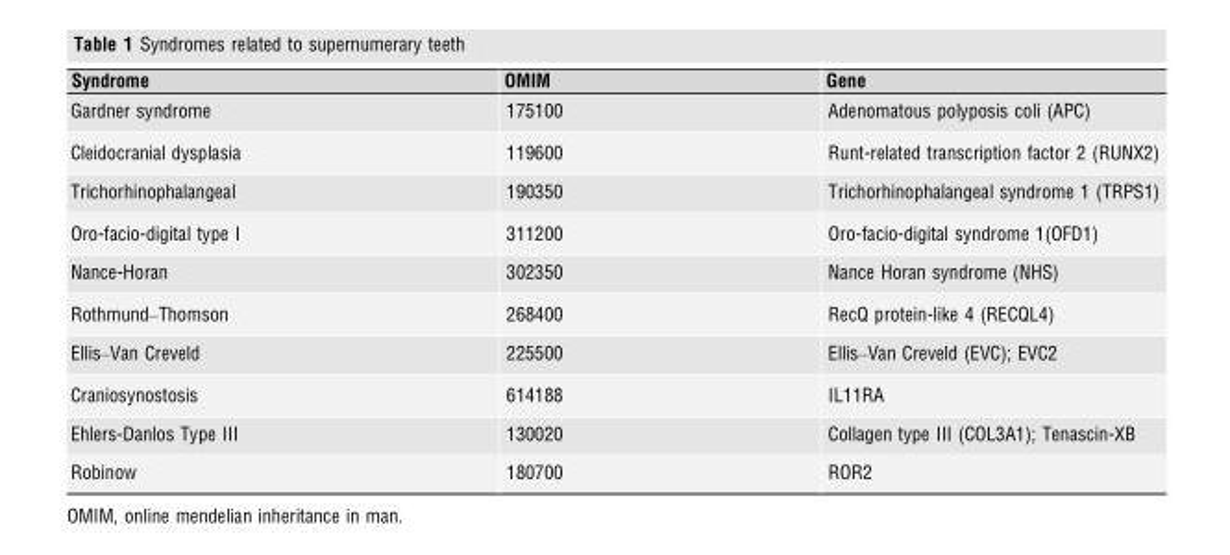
<table><thead><tr><td>Syndrome</td><td>OMIM</td><td>Gene</td></tr></thead><tbody><tr><td>Gardner syndrome</td><td>175100</td><td>Adenomatous polyposis coli (APC)</td></tr><tr><td>Cleidocranial dysplasia</td><td>119600</td><td>Runt-related transcription factor 2 (RUNX2)</td></tr><tr><td>Trichorhinophalangeal</td><td>190350</td><td>Trichorhinophalangeal syndrome 1 (TRPS1)</td></tr><tr><td>Oro-facio-digital type I</td><td>311200</td><td>Oro-facio-digital syndrome 1(OFD1)</td></tr><tr><td>Nance-Horan</td><td>302350</td><td>Nance Horan syndrome (NHS)</td></tr><tr><td>Rothmund–Thomson</td><td>268400</td><td>RecQ protein-like 4 (RECQL4)</td></tr><tr><td>Ellis–Van Creveld</td><td>225500</td><td>Ellis–Van Creveld (EVC); EVC2</td></tr><tr><td>Craniosynostosis</td><td>614188</td><td>IL11RA</td></tr><tr><td>Ehlers-Danlos Type III</td><td>130020</td><td>Collagen type III (COL3A1); Tenascin-XB</td></tr><tr><td>Robinow</td><td>180700</td><td>ROR2</td></tr></tbody></table>